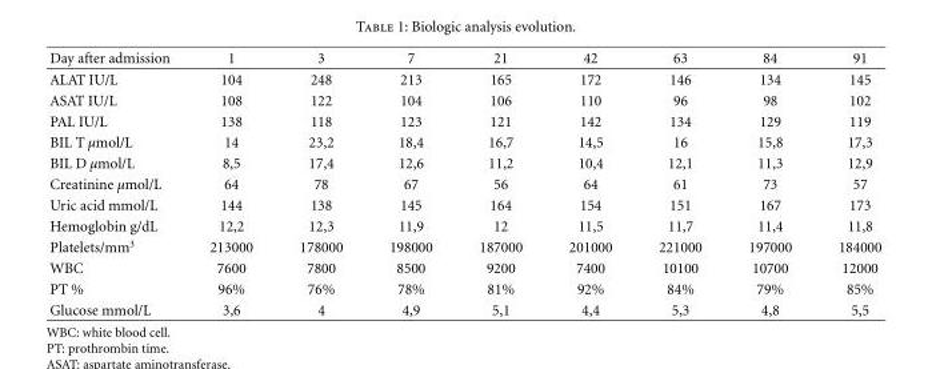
<table><thead><tr><td>Day after admission</td><td>1</td><td>3</td><td>7</td><td>21</td><td>42</td><td>63</td><td>84</td><td>91</td></tr></thead><tbody><tr><td>ALAT IU/L</td><td>104</td><td>248</td><td>213</td><td>165</td><td>172</td><td>146</td><td>134</td><td>145</td></tr><tr><td>ASAT IU/L</td><td>108</td><td>122</td><td>104</td><td>106</td><td>110</td><td>96</td><td>98</td><td>102</td></tr><tr><td>PAL IU/L</td><td>138</td><td>118</td><td>123</td><td>121</td><td>142</td><td>134</td><td>129</td><td>119</td></tr><tr><td>BIL T µmol/L</td><td>14</td><td>23,2</td><td>18,4</td><td>16,7</td><td>14,5</td><td>16</td><td>15,8</td><td>17,3</td></tr><tr><td>BIL D µmol/L</td><td>8,5</td><td>17,4</td><td>12,6</td><td>11,2</td><td>10,4</td><td>12,1</td><td>11,3</td><td>12,9</td></tr><tr><td>Creatinine µmol/L</td><td>64</td><td>78</td><td>67</td><td>56</td><td>64</td><td>61</td><td>73</td><td>57</td></tr><tr><td>Uric acid mmol/L</td><td>144</td><td>138</td><td>145</td><td>164</td><td>154</td><td>151</td><td>167</td><td>173</td></tr><tr><td>Hemoglobin g/dL</td><td>12,2</td><td>12,3</td><td>11,9</td><td>12</td><td>11,5</td><td>11,7</td><td>11,4</td><td>11,8</td></tr><tr><td>Platelets/mm<sup>3</sup></td><td>213000</td><td>178000</td><td>198000</td><td>187000</td><td>201000</td><td>221000</td><td>197000</td><td>184000</td></tr><tr><td>WBC</td><td>7600</td><td>7800</td><td>8500</td><td>9200</td><td>7400</td><td>10100</td><td>10700</td><td>12000</td></tr><tr><td>PT %</td><td>96%</td><td>76%</td><td>78%</td><td>81%</td><td>92%</td><td>84%</td><td>79%</td><td>85%</td></tr><tr><td>Glucose mmol/L</td><td>3,6</td><td>4</td><td>4,9</td><td>5,1</td><td>4,4</td><td>5,3</td><td>4,8</td><td>5,5</td></tr></tbody></table>